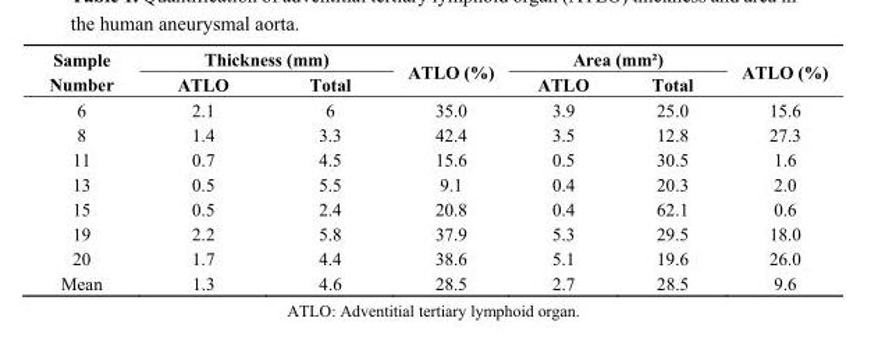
<table><thead><tr><td rowspan="2">Sample Number</td><td colspan="2">Thickness (mm)</td><td rowspan="2">ATLO (%)</td><td colspan="2">Area (mm²)</td><td rowspan="2">ATLO (%)</td></tr><tr><td>ATLO</td><td>Total</td><td>ATLO</td><td>Total</td></tr></thead><tbody><tr><td>6</td><td>2.1</td><td>6</td><td>35.0</td><td>3.9</td><td>25.0</td><td>15.6</td></tr><tr><td>8</td><td>1.4</td><td>3.3</td><td>42.4</td><td>3.5</td><td>12.8</td><td>27.3</td></tr><tr><td>11</td><td>0.7</td><td>4.5</td><td>15.6</td><td>0.5</td><td>30.5</td><td>1.6</td></tr><tr><td>13</td><td>0.5</td><td>5.5</td><td>9.1</td><td>0.4</td><td>20.3</td><td>2.0</td></tr><tr><td>15</td><td>0.5</td><td>2.4</td><td>20.8</td><td>0.4</td><td>62.1</td><td>0.6</td></tr><tr><td>19</td><td>2.2</td><td>5.8</td><td>37.9</td><td>5.3</td><td>29.5</td><td>18.0</td></tr><tr><td>20</td><td>1.7</td><td>4.4</td><td>38.6</td><td>5.1</td><td>19.6</td><td>26.0</td></tr><tr><td>Mean</td><td>1.3</td><td>4.6</td><td>28.5</td><td>2.7</td><td>28.5</td><td>9.6</td></tr></tbody></table>